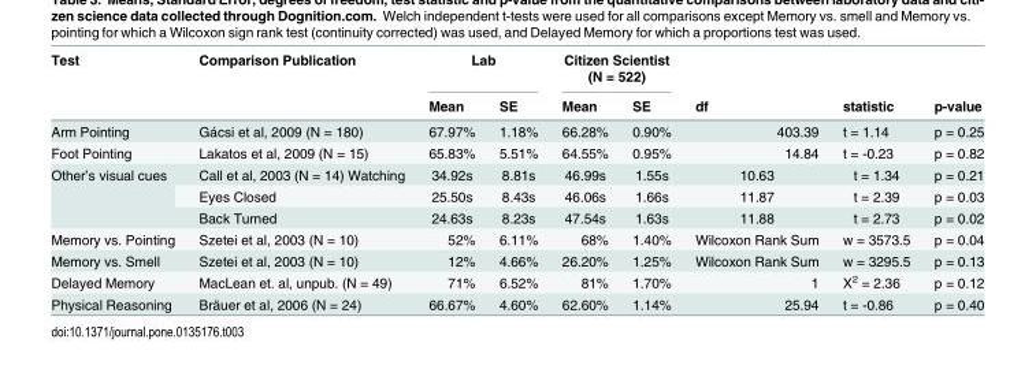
<table><thead><tr><td rowspan="2">Test</td><td rowspan="2">Comparison Publication</td><td colspan="2">Lab</td><td colspan="2">Citizen Scientist (N = 522)</td><td rowspan="2">df</td><td rowspan="2">statistic</td><td rowspan="2">p-value</td></tr><tr><td>Mean</td><td>SE</td><td>Mean</td><td>SE</td></tr></thead><tbody><tr><td>Arm Pointing</td><td>Gácsi et al, 2009 (N = 180)</td><td>67.97%</td><td>1.18%</td><td>66.28%</td><td>0.90%</td><td>403.39</td><td>t = 1.14</td><td>p = 0.25</td></tr><tr><td>Foot Pointing</td><td>Lakatos et al, 2009 (N = 15)</td><td>65.83%</td><td>5.51%</td><td>64.55%</td><td>0.95%</td><td>14.84</td><td>t = -0.23</td><td>p = 0.82</td></tr><tr><td rowspan="3">Other’s visual cues</td><td>Call et al, 2003 (N = 14) Watching</td><td>34.92s</td><td>8.81s</td><td>46.99s</td><td>1.55s</td><td>10.63</td><td>t = 1.34</td><td>p = 0.21</td></tr><tr><td>Eyes Closed</td><td>25.50s</td><td>8.43s</td><td>46.06s</td><td>1.66s</td><td>11.87</td><td>t = 2.39</td><td>p = 0.03</td></tr><tr><td>Back Turned</td><td>24.63s</td><td>8.23s</td><td>47.54s</td><td>1.63s</td><td>11.88</td><td>t = 2.73</td><td>p = 0.02</td></tr><tr><td>Memory vs. Pointing</td><td>Szetei et al, 2003 (N = 10)</td><td>52%</td><td>6.11%</td><td>68%</td><td>1.40%</td><td>Wilcoxon Rank Sum</td><td>w = 3573.5</td><td>p = 0.04</td></tr><tr><td>Memory vs. Smell</td><td>Szetei et al, 2003 (N = 10)</td><td>12%</td><td>4.66%</td><td>26.20%</td><td>1.25%</td><td>Wilcoxon Rank Sum</td><td>w = 3295.5</td><td>p = 0.13</td></tr><tr><td>Delayed Memory</td><td>MacLean et. al, unpub. (N = 49)</td><td>71%</td><td>6.52%</td><td>81%</td><td>1.70%</td><td>1</td><td>X<sup>2</sup> = 2.36</td><td>p = 0.12</td></tr><tr><td>Physical Reasoning</td><td>Bräuer et al, 2006 (N = 24)</td><td>66.67%</td><td>4.60%</td><td>62.60%</td><td>1.14%</td><td>25.94</td><td>t = -0.86</td><td>p = 0.40</td></tr></tbody></table>